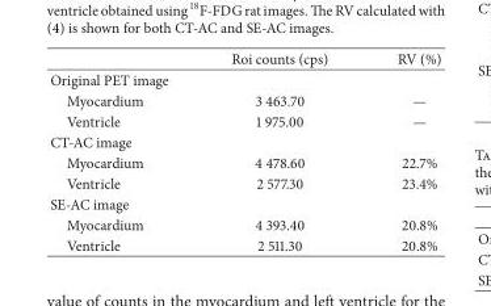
<table><thead><tr><td></td><td>Roi counts (cps)</td><td>RV (%)</td></tr></thead><tbody><tr><td colspan="3">Original PET image</td></tr><tr><td>Myocardium</td><td>3 463.70</td><td>—</td></tr><tr><td>Ventricle</td><td>1 975.00</td><td>—</td></tr><tr><td colspan="3">CT-AC image</td></tr><tr><td>Myocardium</td><td>4 478.60</td><td>22.7%</td></tr><tr><td>Ventricle</td><td>2 577.30</td><td>23.4%</td></tr><tr><td colspan="3">SE-AC image</td></tr><tr><td>Myocardium</td><td>4 393.40</td><td>20.8%</td></tr><tr><td>Ventricle</td><td>2 511.30</td><td>20.8%</td></tr></tbody></table>